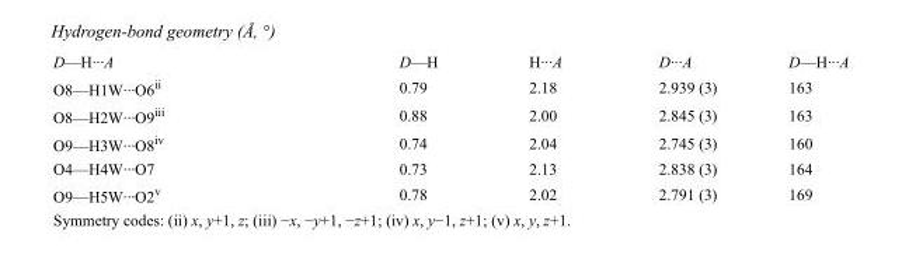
<table><tbody><tr><td>D—H···A</td><td>D—H</td><td>H···A</td><td>D···A</td><td>D—H···A</td></tr><tr><td>O8—H1W···O6<sup>ii</sup></td><td>0.79</td><td>2.18</td><td>2.939 (3)</td><td>163</td></tr><tr><td>O8—H2W···O9<sup>iii</sup></td><td>0.88</td><td>2.00</td><td>2.845 (3)</td><td>163</td></tr><tr><td>O9—H3W···O8<sup>iv</sup></td><td>0.74</td><td>2.04</td><td>2.745 (3)</td><td>160</td></tr><tr><td>O4—H4W···O7</td><td>0.73</td><td>2.13</td><td>2.838 (3)</td><td>164</td></tr><tr><td>O9—H5W···O2<sup>v</sup></td><td>0.78</td><td>2.02</td><td>2.791 (3)</td><td>169</td></tr></tbody></table>